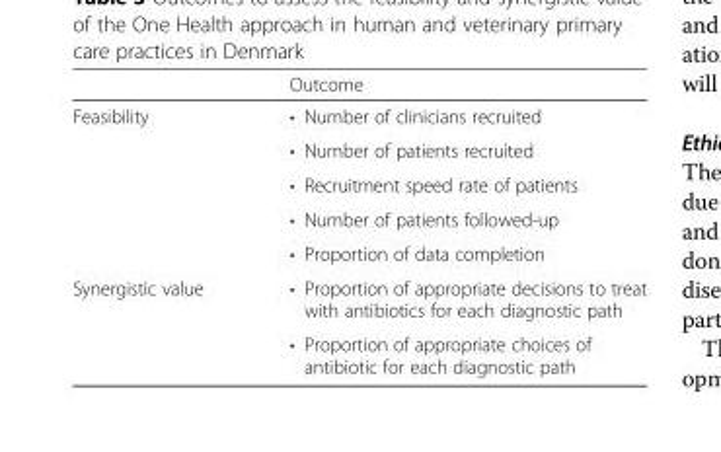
<table><thead><tr><td></td><td>Outcome</td></tr></thead><tbody><tr><td rowspan="5">Feasibility</td><td>• Number of clinicians recruited</td></tr><tr><td>• Number of patients recruited</td></tr><tr><td>• Recruitment speed rate of patients</td></tr><tr><td>• Number of patients followed-up</td></tr><tr><td>• Proportion of data completion</td></tr><tr><td rowspan="2">Synergistic value</td><td>• Proportion of appropriate decisions to treat with antibiotics for each diagnostic path</td></tr><tr><td>• Proportion of appropriate choices of antibiotic for each diagnostic path</td></tr></tbody></table>